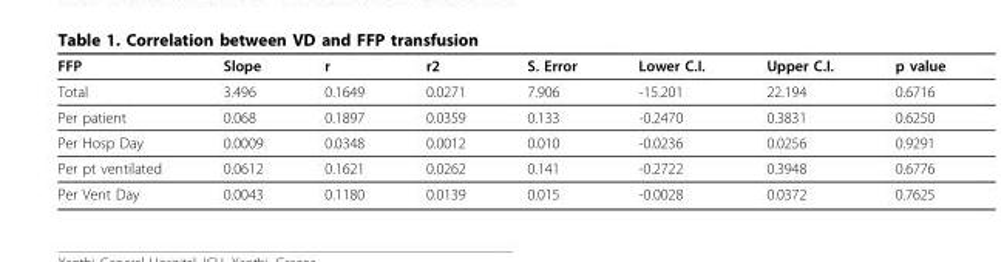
<table><thead><tr><td>FFP</td><td>Slope</td><td>r</td><td>r2</td><td>S. Error</td><td>Lower C.I.</td><td>Upper C.I.</td><td>p value</td></tr></thead><tbody><tr><td>Total</td><td>3.496</td><td>0.1649</td><td>0.0271</td><td>7.906</td><td>-15.201</td><td>22.194</td><td>0.6716</td></tr><tr><td>Per patient</td><td>0.068</td><td>0.1897</td><td>0.0359</td><td>0.133</td><td>-0.2470</td><td>0.3831</td><td>0.6250</td></tr><tr><td>Per Hosp Day</td><td>0.0009</td><td>0.0348</td><td>0.0012</td><td>0.010</td><td>-0.0236</td><td>0.0256</td><td>0.9291</td></tr><tr><td>Per pt ventilated</td><td>0.0612</td><td>0.1621</td><td>0.0262</td><td>0.141</td><td>-0.2722</td><td>0.3948</td><td>0.6776</td></tr><tr><td>Per Vent Day</td><td>0.0043</td><td>0.1180</td><td>0.0139</td><td>0.015</td><td>-0.0028</td><td>0.0372</td><td>0.7625</td></tr></tbody></table>